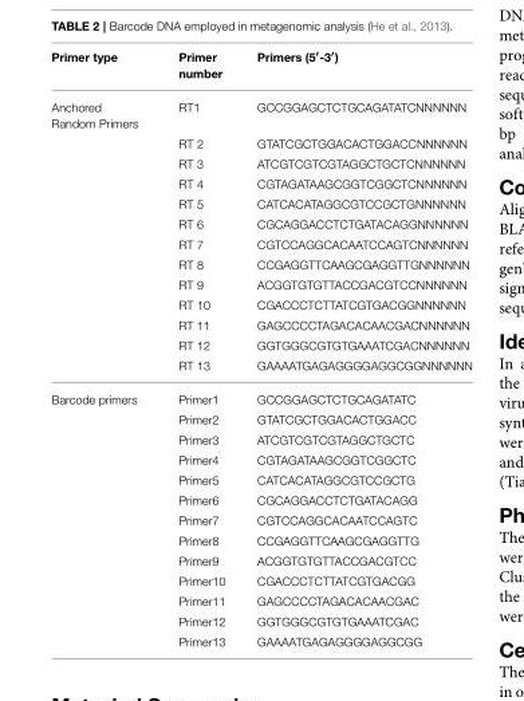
<table><thead><tr><td>Primer type</td><td>Primer number</td><td>Primers (5<sup>′</sup>-3<sup>′</sup>)</td></tr></thead><tbody><tr><td rowspan="13">Anchored Random Primers</td><td>RT1</td><td>GCCGGAGCTCTGCAGATATCNNNNNN</td></tr><tr><td>RT 2</td><td>GTATCGCTGGACACTGGACCNNNNNN</td></tr><tr><td>RT 3</td><td>ATCGTCGTCGTAGGCTGCTCNNNNNN</td></tr><tr><td>RT 4</td><td>CGTAGATAAGCGGTCGGCTCNNNNNN</td></tr><tr><td>RT 5</td><td>CATCACATAGGCGTCCGCTGNNNNNN</td></tr><tr><td>RT 6</td><td>CGCAGGACCTCTGATACAGGNNNNNN</td></tr><tr><td>RT 7</td><td>CGTCCAGGCACAATCCAGTCNNNNNN</td></tr><tr><td>RT 8</td><td>CCGAGGTTCAAGCGAGGTTGNNNNNN</td></tr><tr><td>RT 9</td><td>ACGGTGTGTTACCGACGTCCNNNNNN</td></tr><tr><td>RT 10</td><td>CGACCCTCTTATCGTGACGGNNNNNN</td></tr><tr><td>RT 11</td><td>GAGCCCCTAGACACAACGACNNNNNN</td></tr><tr><td>RT 12</td><td>GGTGGGCGTGTGAAATCGACNNNNNN</td></tr><tr><td>RT 13</td><td>GAAAATGAGAGGGGAGGCGGNNNNNN</td></tr><tr><td rowspan="13">Barcode primers</td><td>Primer1</td><td>GCCGGAGCTCTGCAGATATC</td></tr><tr><td>Primer2</td><td>GTATCGCTGGACACTGGACC</td></tr><tr><td>Primer3</td><td>ATCGTCGTCGTAGGCTGCTC</td></tr><tr><td>Primer4</td><td>CGTAGATAAGCGGTCGGCTC</td></tr><tr><td>Primer5</td><td>CATCACATAGGCGTCCGCTG</td></tr><tr><td>Primer6</td><td>CGCAGGACCTCTGATACAGG</td></tr><tr><td>Primer7</td><td>CGTCCAGGCACAATCCAGTC</td></tr><tr><td>Primer8</td><td>CCGAGGTTCAAGCGAGGTTG</td></tr><tr><td>Primer9</td><td>ACGGTGTGTTACCGACGTCC</td></tr><tr><td>Primer10</td><td>CGACCCTCTTATCGTGACGG</td></tr><tr><td>Primer11</td><td>GAGCCCCTAGACACAACGAC</td></tr><tr><td>Primer12</td><td>GGTGGGCGTGTGAAATCGAC</td></tr><tr><td>Primer13</td><td>GAAAATGAGAGGGGAGGCGG</td></tr></tbody></table>